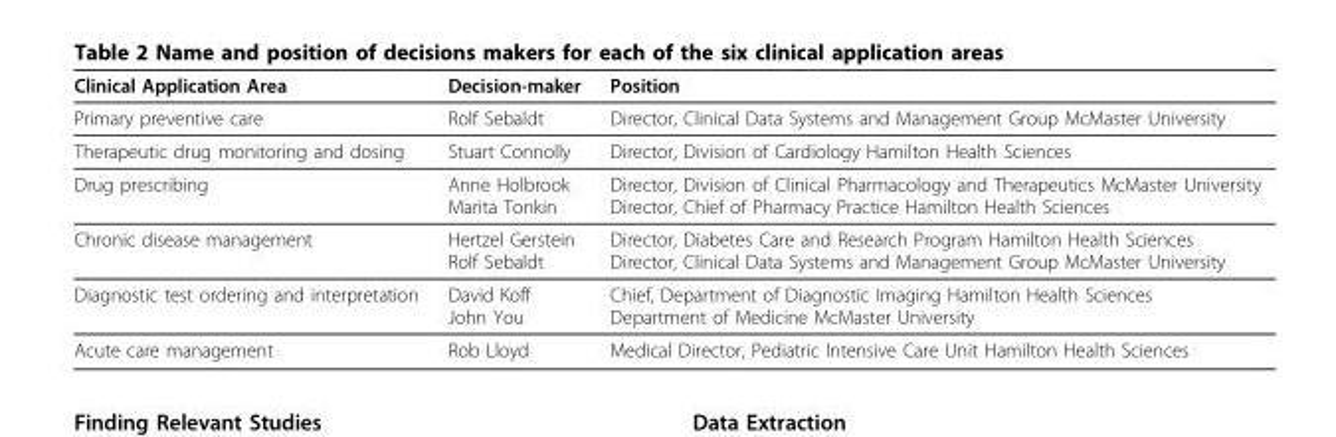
<table><thead><tr><td>Clinical Application Area</td><td>Decision-maker</td><td>Position</td></tr></thead><tbody><tr><td>Primary preventive care</td><td>Rolf Sebaldt</td><td>Director, Clinical Data Systems and Management Group McMaster University</td></tr><tr><td>Therapeutic drug monitoring and dosing</td><td>Stuart Connolly</td><td>Director, Division of Cardiology Hamilton Health Sciences</td></tr><tr><td>Drug prescribing</td><td>Anne Holbrook Marita Tonkin</td><td>Director, Division of Clinical Pharmacology and Therapeutics McMaster University Director, Chief of Pharmacy Practice Hamilton Health Sciences</td></tr><tr><td>Chronic disease management</td><td>Hertzel Gerstein Rolf Sebaldt</td><td>Director, Diabetes Care and Research Program Hamilton Health Sciences Director, Clinical Data Systems and Management Group McMaster University</td></tr><tr><td>Diagnostic test ordering and interpretation</td><td>David Koff John You</td><td>Chief, Department of Diagnostic Imaging Hamilton Health Sciences Department of Medicine McMaster University</td></tr><tr><td>Acute care management</td><td>Rob Lloyd</td><td>Medical Director, Pediatric Intensive Care Unit Hamilton Health Sciences</td></tr></tbody></table>